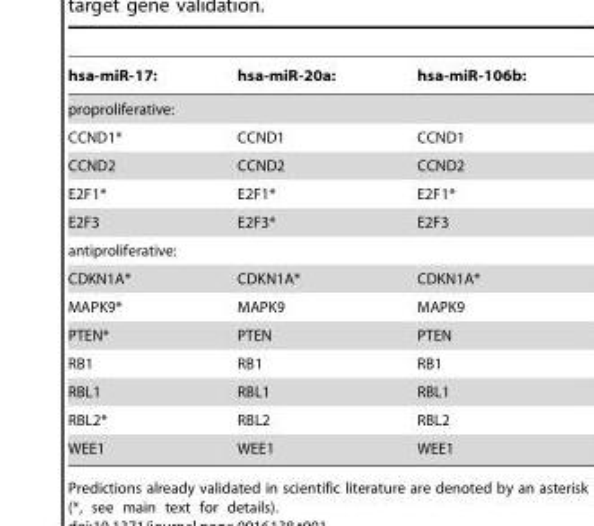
<table><thead><tr><td>hsa-miR-17:</td><td>hsa-miR-20a:</td><td>hsa-miR-106b:</td></tr></thead><tbody><tr><td colspan="3">proproliferative:</td></tr><tr><td>CCND1*</td><td>CCND1</td><td>CCND1</td></tr><tr><td>CCND2</td><td>CCND2</td><td>CCND2</td></tr><tr><td>E2F1*</td><td>E2F1*</td><td>E2F1*</td></tr><tr><td>E2F3</td><td>E2F3*</td><td>E2F3</td></tr><tr><td colspan="3">antiproliferative:</td></tr><tr><td>CDKN1A*</td><td>CDKN1A*</td><td>CDKN1A*</td></tr><tr><td>MAPK9*</td><td>MAPK9</td><td>MAPK9</td></tr><tr><td>PTEN*</td><td>PTEN</td><td>PTEN</td></tr><tr><td>RB1</td><td>RB1</td><td>RB1</td></tr><tr><td>RBL1</td><td>RBL1</td><td>RBL1</td></tr><tr><td>RBL2*</td><td>RBL2</td><td>RBL2</td></tr><tr><td>WEE1</td><td>WEE1</td><td>WEE1</td></tr></tbody></table>